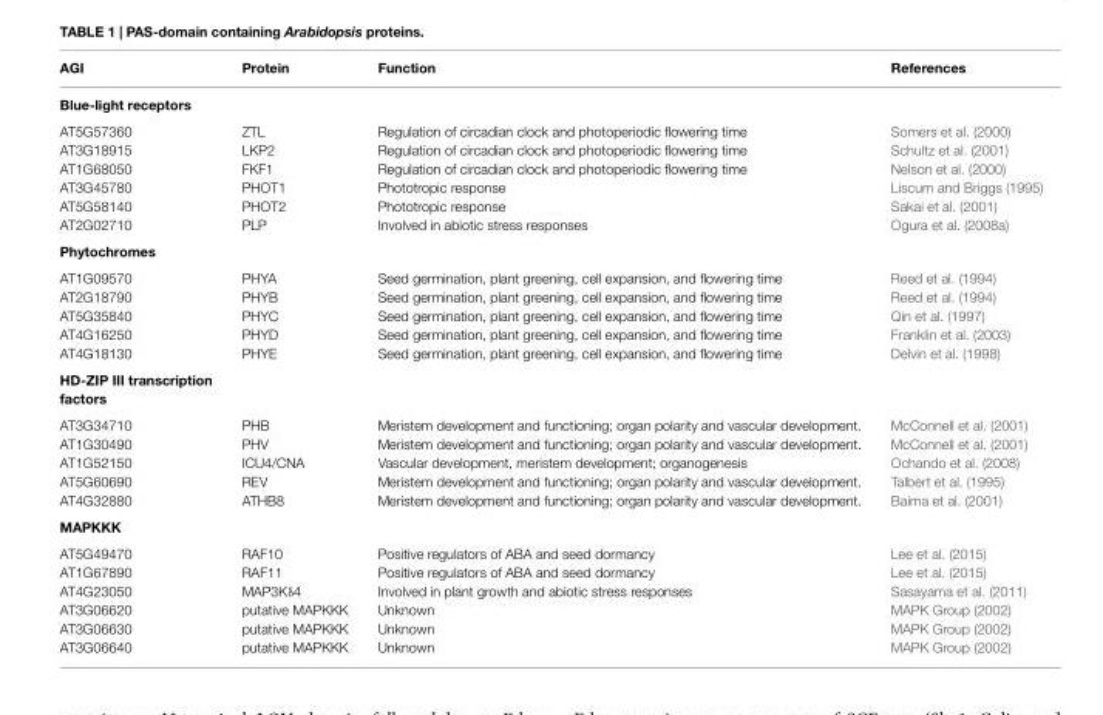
<table><thead><tr><td>AGI</td><td>Protein</td><td>Function</td><td>References</td></tr></thead><tbody><tr><td colspan="4">Blue-light receptors</td></tr><tr><td>AT5G57360</td><td>ZTL</td><td>Regulation of circadian clock and photoperiodic flowering time</td><td>Somers et al. (2000)</td></tr><tr><td>AT3G18915</td><td>LKP2</td><td>Regulation of circadian clock and photoperiodic flowering time</td><td>Schultz et al. (2001)</td></tr><tr><td>AT1G68050</td><td>FKF1</td><td>Regulation of circadian clock and photoperiodic flowering time</td><td>Nelson et al. (2000)</td></tr><tr><td>AT3G45780</td><td>PHOT1</td><td>Phototropic response</td><td>Liscum and Briggs (1995)</td></tr><tr><td>AT5G58140</td><td>PHOT2</td><td>Phototropic response</td><td>Sakai et al. (2001)</td></tr><tr><td>AT2G02710</td><td>PLP</td><td>Involved in abiotic stress responses</td><td>Ogura et al. (2008a)</td></tr><tr><td colspan="4">Phytochromes</td></tr><tr><td>AT1G09570</td><td>PHYA</td><td>Seed germination, plant greening, cell expansion, and flowering time</td><td>Reed et al. (1994)</td></tr><tr><td>AT2G18790</td><td>PHYB</td><td>Seed germination, plant greening, cell expansion, and flowering time</td><td>Reed et al. (1994)</td></tr><tr><td>AT5G35840</td><td>PHYC</td><td>Seed germination, plant greening, cell expansion, and flowering time</td><td>Qin et al. (1997)</td></tr><tr><td>AT4G16250</td><td>PHYD</td><td>Seed germination, plant greening, cell expansion, and flowering time</td><td>Franklin et al. (2003)</td></tr><tr><td>AT4G18130</td><td>PHYE</td><td>Seed germination, plant greening, cell expansion, and flowering time</td><td>Delvin et al. (1998)</td></tr><tr><td colspan="4">HD-ZIP III transcription factors</td></tr><tr><td>AT3G34710</td><td>PHB</td><td>Meristem development and functioning; organ polarity and vascular development.</td><td>McConnell et al. (2001)</td></tr><tr><td>AT1G30490</td><td>PHV</td><td>Meristem development and functioning; organ polarity and vascular development.</td><td>McConnell et al. (2001)</td></tr><tr><td>AT1G52150</td><td>ICU4/CNA</td><td>Vascular development, meristem development; organogenesis</td><td>Ochando et al. (2008)</td></tr><tr><td>AT5G60690</td><td>REV</td><td>Meristem development and functioning; organ polarity and vascular development.</td><td>Talbert et al. (1995)</td></tr><tr><td>AT4G32880</td><td>ATHB8</td><td>Meristem development and functioning; organ polarity and vascular development.</td><td>Baima et al. (2001)</td></tr><tr><td colspan="4">MAPKKK</td></tr><tr><td>AT5G49470</td><td>RAF10</td><td>Positive regulators of ABA and seed dormancy</td><td>Lee et al. (2015)</td></tr><tr><td>AT1G67890</td><td>RAF11</td><td>Positive regulators of ABA and seed dormancy</td><td>Lee et al. (2015)</td></tr><tr><td>AT4G23050</td><td>MAP3Kδ4</td><td>Involved in plant growth and abiotic stress responses</td><td>Sasayama et al. (2011)</td></tr><tr><td>AT3G06620</td><td>putative MAPKKK</td><td>Unknown</td><td>MAPK Group (2002)</td></tr><tr><td>AT3G06630</td><td>putative MAPKKK</td><td>Unknown</td><td>MAPK Group (2002)</td></tr><tr><td>AT3G06640</td><td>putative MAPKKK</td><td>Unknown</td><td>MAPK Group (2002)</td></tr></tbody></table>